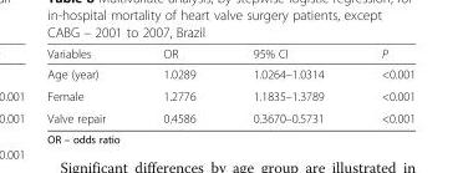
<table><thead><tr><td>Variables</td><td>OR</td><td>95% CI</td><td>P</td></tr></thead><tbody><tr><td>Age (year)</td><td>1.0289</td><td>1.0264–1.0314</td><td>&lt;0.001</td></tr><tr><td>Female</td><td>1.2776</td><td>1.1835–1.3789</td><td>&lt;0.001</td></tr><tr><td>Valve repair</td><td>0.4586</td><td>0.3670–0.5731</td><td>&lt;0.001</td></tr></tbody></table>